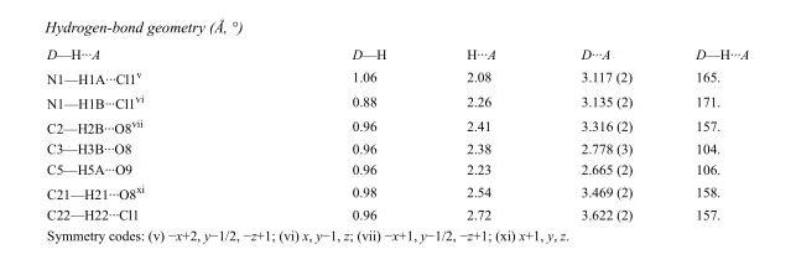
<table><tbody><tr><td>D—H···A</td><td>D—H</td><td>H···A</td><td>D···A</td><td>D—H···A</td></tr><tr><td>N1—H1A···Cl1<sup>v</sup></td><td>1.06</td><td>2.08</td><td>3.117 (2)</td><td>165.</td></tr><tr><td>N1—H1B···Cl1<sup>vi</sup></td><td>0.88</td><td>2.26</td><td>3.135 (2)</td><td>171.</td></tr><tr><td>C2—H2B···O8<sup>vii</sup></td><td>0.96</td><td>2.41</td><td>3.316 (2)</td><td>157.</td></tr><tr><td>C3—H3B···O8</td><td>0.96</td><td>2.38</td><td>2.778 (3)</td><td>104.</td></tr><tr><td>C5—H5A···O9</td><td>0.96</td><td>2.23</td><td>2.665 (2)</td><td>106.</td></tr><tr><td>C21—H21···O8<sup>xi</sup></td><td>0.98</td><td>2.54</td><td>3.469 (2)</td><td>158.</td></tr><tr><td>C22—H22···Cl1</td><td>0.96</td><td>2.72</td><td>3.622 (2)</td><td>157.</td></tr></tbody></table>